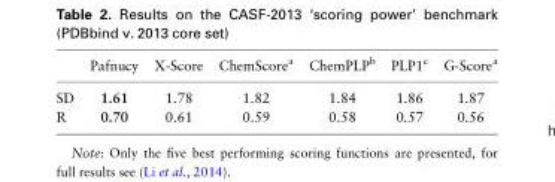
<table><thead><tr><td></td><td>Pafnucy</td><td>X-Score</td><td>ChemScore<sup>a</sup></td><td>ChemPLP<sup>b</sup></td><td>PLP1<sup>c</sup></td><td>G-Score<sup>a</sup></td></tr></thead><tbody><tr><td>SD</td><td>1.61</td><td>1.78</td><td>1.82</td><td>1.84</td><td>1.86</td><td>1.87</td></tr><tr><td>R</td><td>0.70</td><td>0.61</td><td>0.59</td><td>0.58</td><td>0.57</td><td>0.56</td></tr></tbody></table>